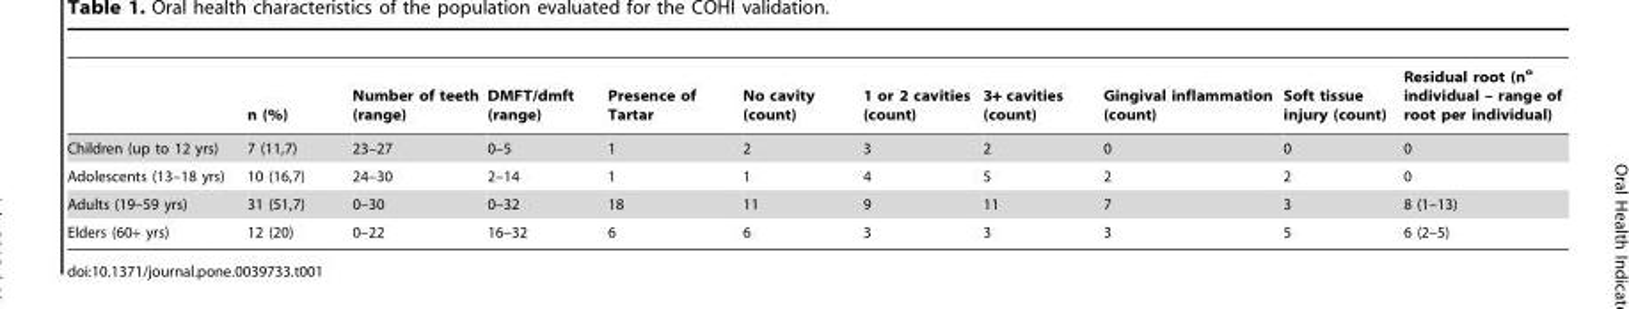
<table><thead><tr><td></td><td>n (%)</td><td>Number of teeth (range)</td><td>DMFT/dmft (range)</td><td>Presence of Tartar</td><td>No cavity (count)</td><td>1 or 2 cavities (count)</td><td>3+ cavities (count)</td><td>Gingival inflammation (count)</td><td>Soft tissue injury (count)</td><td>Residual root (n<sup>o</sup> individual – range of root per individual)</td></tr></thead><tbody><tr><td>Children (up to 12 yrs)</td><td>7 (11,7)</td><td>23–27</td><td>0–5</td><td>1</td><td>2</td><td>3</td><td>2</td><td>0</td><td>0</td><td>0</td></tr><tr><td>Adolescents (13–18 yrs)</td><td>10 (16,7)</td><td>24–30</td><td>2–14</td><td>1</td><td>1</td><td>4</td><td>5</td><td>2</td><td>2</td><td>0</td></tr><tr><td>Adults (19–59 yrs)</td><td>31 (51,7)</td><td>0–30</td><td>0–32</td><td>18</td><td>11</td><td>9</td><td>11</td><td>7</td><td>3</td><td>8 (1–13)</td></tr><tr><td>Elders (60+ yrs)</td><td>12 (20)</td><td>0–22</td><td>16–32</td><td>6</td><td>6</td><td>3</td><td>3</td><td>3</td><td>5</td><td>6 (2–5)</td></tr></tbody></table>